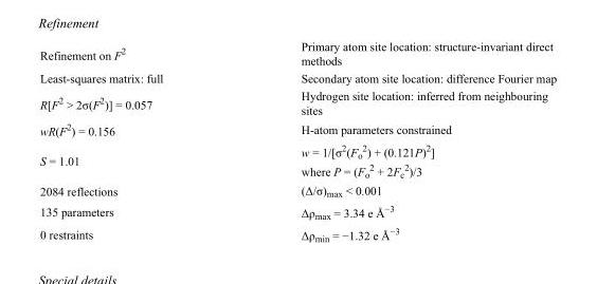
<table><tbody><tr><td>Refinement on F<sup>2</sup></td><td>Primary atom site location: structure-invariant direct methods</td></tr><tr><td>Least-squares matrix: full</td><td>Secondary atom site location: difference Fourier map</td></tr><tr><td>R[F<sup>2</sup> &gt; 2σ(F<sup>2</sup>)] = 0.057</td><td>Hydrogen site location: inferred from neighbouring sites</td></tr><tr><td>wR(F<sup>2</sup>) = 0.156</td><td>H-atom parameters constrained</td></tr><tr><td>S = 1.01</td><td>w = 1/[σ<sup>2</sup>(F<sub>o</sub> <sup>2</sup>) + (0.121P)<sup>2</sup>] where P = (F<sub>o</sub> <sup>2</sup> + 2F<sub>c</sub> <sup>2</sup>)/3</td></tr><tr><td>2084 reflections</td><td>(Δ/σ)<sub>max</sub> &lt; 0.001</td></tr><tr><td>135 parameters</td><td>Δρ<sub>max</sub> = 3.34 e Å<sup>−3</sup></td></tr><tr><td>0 restraints</td><td>Δρ<sub>min</sub> = −1.32 e Å<sup>−3</sup></td></tr></tbody></table>